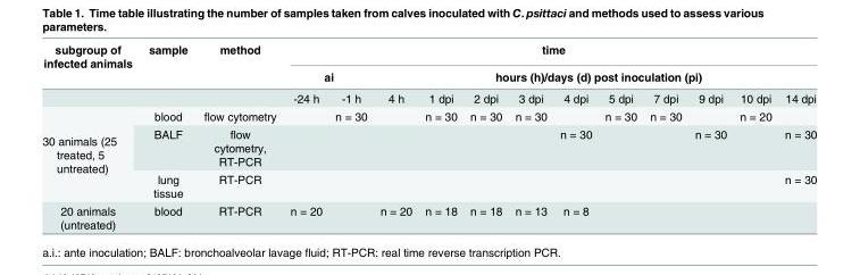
<table><thead><tr><td rowspan="3">subgroup of infected animals</td><td rowspan="3">sample</td><td rowspan="3">method</td><td colspan="12">time</td></tr><tr><td colspan="2">ai</td><td colspan="10">hours (h)/days (d) post inoculation (pi)</td></tr><tr><td>-24 h</td><td>-1 h</td><td>4 h</td><td>1 dpi</td><td>2 dpi</td><td>3 dpi</td><td>4 dpi</td><td>5 dpi</td><td>7 dpi</td><td>9 dpi</td><td>10 dpi</td><td>14 dpi</td></tr></thead><tbody><tr><td rowspan="3">30 animals (25 treated, 5 untreated)</td><td>blood</td><td>flow cytometry</td><td></td><td>n = 30</td><td></td><td>n = 30</td><td>n = 30</td><td>n = 30</td><td></td><td>n = 30</td><td>n = 30</td><td></td><td>n = 20</td><td></td></tr><tr><td>BALF</td><td>flow cytometry, RT-PCR</td><td></td><td></td><td></td><td></td><td></td><td></td><td>n = 30</td><td></td><td></td><td>n = 30</td><td></td><td>n = 30</td></tr><tr><td>lung tissue</td><td>RT-PCR</td><td></td><td></td><td></td><td></td><td></td><td></td><td></td><td></td><td></td><td></td><td></td><td>n = 30</td></tr><tr><td>20 animals (untreated)</td><td>blood</td><td>RT-PCR</td><td>n = 20</td><td></td><td>n = 20</td><td>n = 18</td><td>n = 18</td><td>n = 13</td><td>n = 8</td><td></td><td></td><td></td><td></td><td></td></tr></tbody></table>